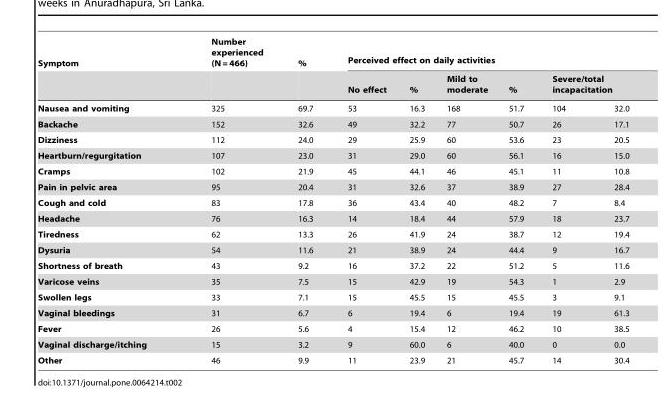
<table><thead><tr><td rowspan="3">Symptom Nausea and vomiting</td><td rowspan="3">Number experienced (N = 466) 325</td><td rowspan="3">% 69.7</td><td colspan="6">Perceived effect on daily activities</td></tr><tr><td rowspan="2">No effect 53</td><td rowspan="2">% 16.3</td><td rowspan="2">Mild to moderate 168</td><td rowspan="2">% 51.7</td><td colspan="2">Severe/total incapacitation</td></tr><tr><td>104</td><td>32.0</td></tr></thead><tbody><tr><td>Backache</td><td>152</td><td>32.6</td><td>49</td><td>32.2</td><td>77</td><td>50.7</td><td>26</td><td>17.1</td></tr><tr><td>Dizziness</td><td>112</td><td>24.0</td><td>29</td><td>25.9</td><td>60</td><td>53.6</td><td>23</td><td>20.5</td></tr><tr><td>Heartburn/regurgitation</td><td>107</td><td>23.0</td><td>31</td><td>29.0</td><td>60</td><td>56.1</td><td>16</td><td>15.0</td></tr><tr><td>Cramps</td><td>102</td><td>21.9</td><td>45</td><td>44.1</td><td>46</td><td>45.1</td><td>11</td><td>10.8</td></tr><tr><td>Pain in pelvic area</td><td>95</td><td>20.4</td><td>31</td><td>32.6</td><td>37</td><td>38.9</td><td>27</td><td>28.4</td></tr><tr><td>Cough and cold</td><td>83</td><td>17.8</td><td>36</td><td>43.4</td><td>40</td><td>48.2</td><td>7</td><td>8.4</td></tr><tr><td>Headache</td><td>76</td><td>16.3</td><td>14</td><td>18.4</td><td>44</td><td>57.9</td><td>18</td><td>23.7</td></tr><tr><td>Tiredness</td><td>62</td><td>13.3</td><td>26</td><td>41.9</td><td>24</td><td>38.7</td><td>12</td><td>19.4</td></tr><tr><td>Dysuria</td><td>54</td><td>11.6</td><td>21</td><td>38.9</td><td>24</td><td>44.4</td><td>9</td><td>16.7</td></tr><tr><td>Shortness of breath</td><td>43</td><td>9.2</td><td>16</td><td>37.2</td><td>22</td><td>51.2</td><td>5</td><td>11.6</td></tr><tr><td>Varicose veins</td><td>35</td><td>7.5</td><td>15</td><td>42.9</td><td>19</td><td>54.3</td><td>1</td><td>2.9</td></tr><tr><td>Swollen legs</td><td>33</td><td>7.1</td><td>15</td><td>45.5</td><td>15</td><td>45.5</td><td>3</td><td>9.1</td></tr><tr><td>Vaginal bleedings</td><td>31</td><td>6.7</td><td>6</td><td>19.4</td><td>6</td><td>19.4</td><td>19</td><td>61.3</td></tr><tr><td>Fever</td><td>26</td><td>5.6</td><td>4</td><td>15.4</td><td>12</td><td>46.2</td><td>10</td><td>38.5</td></tr><tr><td>Vaginal discharge/itching</td><td>15</td><td>3.2</td><td>9</td><td>60.0</td><td>6</td><td>40.0</td><td>0</td><td>0.0</td></tr><tr><td>Other</td><td>46</td><td>9.9</td><td>11</td><td>23.9</td><td>21</td><td>45.7</td><td>14</td><td>30.4</td></tr></tbody></table>